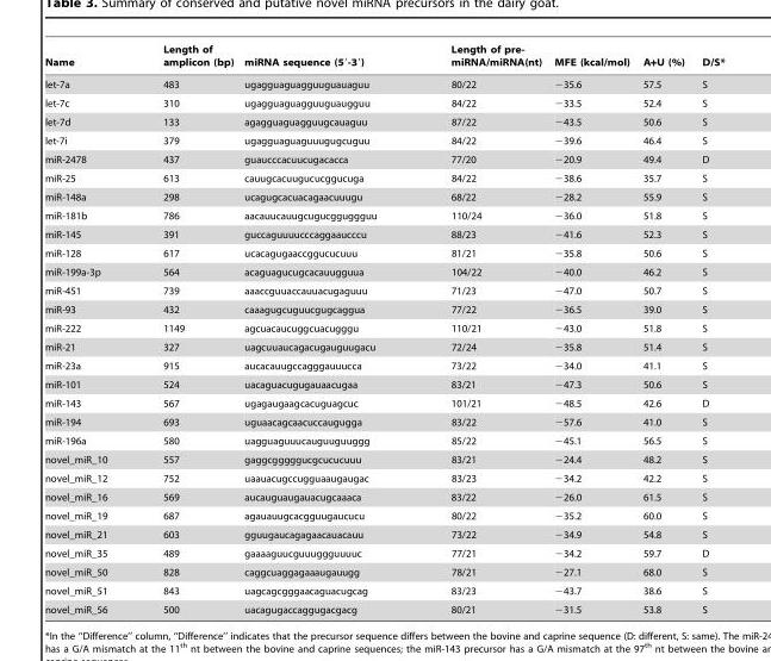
<table><thead><tr><td>Name</td><td>Length of amplicon (bp)</td><td>miRNA sequence (5′-3′)</td><td>Length of pre- miRNA/miRNA(nt)</td><td>MFE (kcal/mol)</td><td>A+U (%)</td><td>D/S*</td></tr></thead><tbody><tr><td>let-7a</td><td>483</td><td>ugagguaguagguuguauaguu</td><td>80/22</td><td>−35.6</td><td>57.5</td><td>S</td></tr><tr><td>let-7c</td><td>310</td><td>ugagguaguagguuguaugguu</td><td>84/22</td><td>−33.5</td><td>52.4</td><td>S</td></tr><tr><td>let-7d</td><td>133</td><td>agagguaguagguugcauaguu</td><td>87/22</td><td>−43.5</td><td>50.6</td><td>S</td></tr><tr><td>let-7i</td><td>379</td><td>ugagguaguaguuugugcuguu</td><td>84/22</td><td>−39.6</td><td>46.4</td><td>S</td></tr><tr><td>miR-2478</td><td>437</td><td>guaucccacuucugacacca</td><td>77/20</td><td>−20.9</td><td>49.4</td><td>D</td></tr><tr><td>miR-25</td><td>613</td><td>cauugcacuugucucggucuga</td><td>84/22</td><td>−38.6</td><td>35.7</td><td>S</td></tr><tr><td>miR-148a</td><td>298</td><td>ucagugcacuacagaacuuugu</td><td>68/22</td><td>−28.2</td><td>55.9</td><td>S</td></tr><tr><td>miR-181b</td><td>786</td><td>aacauucauugcugucgguggguu</td><td>110/24</td><td>−36.0</td><td>51.8</td><td>S</td></tr><tr><td>miR-145</td><td>391</td><td>guccaguuuucccaggaaucccu</td><td>88/23</td><td>−41.6</td><td>52.3</td><td>S</td></tr><tr><td>miR-128</td><td>617</td><td>ucacagugaaccggucucuuu</td><td>81/21</td><td>−35.8</td><td>50.6</td><td>S</td></tr><tr><td>miR-199a-3p</td><td>564</td><td>acaguagucugcacauugguua</td><td>104/22</td><td>−40.0</td><td>46.2</td><td>S</td></tr><tr><td>miR-451</td><td>739</td><td>aaaccguuaccauuacugaguuu</td><td>71/23</td><td>−47.0</td><td>50.7</td><td>S</td></tr><tr><td>miR-93</td><td>432</td><td>caaagugcuguucgugcaggua</td><td>77/22</td><td>−36.5</td><td>39.0</td><td>S</td></tr><tr><td>miR-222</td><td>1149</td><td>agcuacaucuggcuacugggu</td><td>110/21</td><td>−43.0</td><td>51.8</td><td>S</td></tr><tr><td>miR-21</td><td>327</td><td>uagcuuaucagacugauguugacu</td><td>72/24</td><td>−35.8</td><td>51.4</td><td>S</td></tr><tr><td>miR-23a</td><td>915</td><td>aucacauugccagggauuucca</td><td>73/22</td><td>−34.0</td><td>41.1</td><td>S</td></tr><tr><td>miR-101</td><td>524</td><td>uacaguacugugauaacugaa</td><td>83/21</td><td>−47.3</td><td>50.6</td><td>S</td></tr><tr><td>miR-143</td><td>567</td><td>ugagaugaagcacuguagcuc</td><td>101/21</td><td>−48.5</td><td>42.6</td><td>D</td></tr><tr><td>miR-194</td><td>693</td><td>uguaacagcaacuccaugugga</td><td>83/22</td><td>−57.6</td><td>41.0</td><td>S</td></tr><tr><td>miR-196a</td><td>580</td><td>uagguaguuucauguuguuggg</td><td>85/22</td><td>−45.1</td><td>56.5</td><td>S</td></tr><tr><td>novel_miR_10</td><td>557</td><td>gaggcgggggucgcucucuuu</td><td>83/21</td><td>−24.4</td><td>48.2</td><td>S</td></tr><tr><td>novel_miR_12</td><td>752</td><td>uaauacugccugguaaugaugac</td><td>83/23</td><td>−34.2</td><td>42.2</td><td>S</td></tr><tr><td>novel_miR_16</td><td>569</td><td>aucauguaugauacugcaaaca</td><td>83/22</td><td>−26.0</td><td>61.5</td><td>S</td></tr><tr><td>novel_miR_19</td><td>687</td><td>agauauugcacgguugaucucu</td><td>80/22</td><td>−35.2</td><td>60.0</td><td>S</td></tr><tr><td>novel_miR_21</td><td>603</td><td>gguugaucagagaacauacauu</td><td>73/22</td><td>−34.9</td><td>54.8</td><td>S</td></tr><tr><td>novel_miR_35</td><td>489</td><td>gaaaaguucguuuggguuuuc</td><td>77/21</td><td>−34.2</td><td>59.7</td><td>D</td></tr><tr><td>novel_miR_50</td><td>828</td><td>caggcuaggagaaaugauugg</td><td>78/21</td><td>−27.1</td><td>68.0</td><td>S</td></tr><tr><td>novel_miR_51</td><td>843</td><td>uagcagcgggaacaguacugcag</td><td>83/23</td><td>−43.7</td><td>38.6</td><td>S</td></tr><tr><td>novel_miR_56</td><td>500</td><td>uacagugaccaggugacgacg</td><td>80/21</td><td>−31.5</td><td>53.8</td><td>S</td></tr></tbody></table>